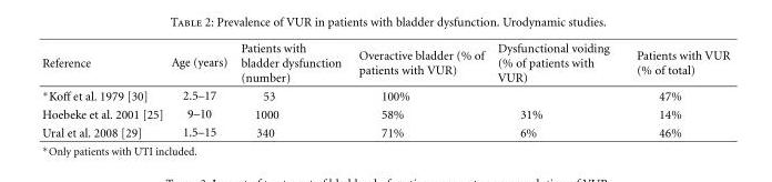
<table><thead><tr><td>Reference</td><td>Age (years)</td><td>Patients with bladder dysfunction (number)</td><td>Overactive bladder (% of patients with VUR)</td><td>Dysfunctional voiding (% of patients with VUR)</td><td>Patients with VUR (% of total)</td></tr></thead><tbody><tr><td>∗Koff et al. 1979 [30]</td><td>2.5–17</td><td>53</td><td>100%</td><td></td><td>47%</td></tr><tr><td>Hoebeke et al. 2001 [25]</td><td>9–10</td><td>1000</td><td>58%</td><td>31%</td><td>14%</td></tr><tr><td>Ural et al. 2008 [29]</td><td>1.5–15</td><td>340</td><td>71%</td><td>6%</td><td>46%</td></tr></tbody></table>